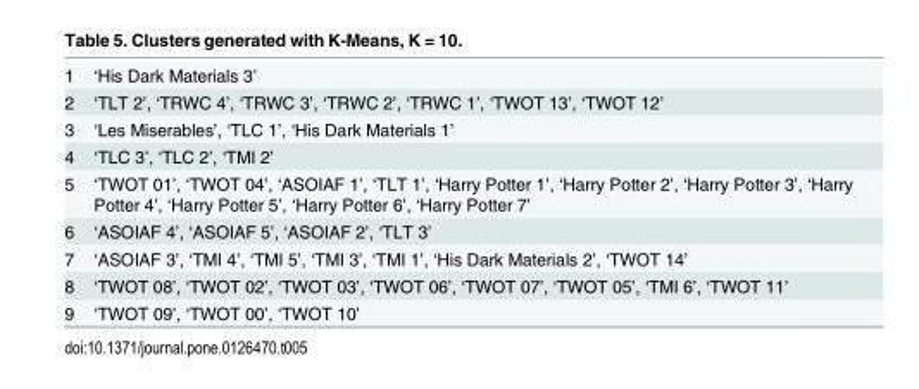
<table><tbody><tr><td>1</td><td>‘His Dark Materials 3’</td></tr><tr><td>2</td><td>‘TLT 2’, ‘TRWC 4’, ‘TRWC 3’, ‘TRWC 2’, ‘TRWC 1’, ‘TWOT 13’, ‘TWOT 12’</td></tr><tr><td>3</td><td>‘Les Miserables’, ‘TLC 1’, ‘His Dark Materials 1’</td></tr><tr><td>4</td><td>‘TLC 3’, ‘TLC 2’, ‘TMI 2’</td></tr><tr><td>5</td><td>‘TWOT 01’, ‘TWOT 04’, ‘ASOIAF 1’, ‘TLT 1’, ‘Harry Potter 1’, ‘Harry Potter 2’, ‘Harry Potter 3’, ‘Harry Potter 4’, ‘Harry Potter 5’, ‘Harry Potter 6’, ‘Harry Potter 7’</td></tr><tr><td>6</td><td>‘ASOIAF 4’, ‘ASOIAF 5’, ‘ASOIAF 2’, ‘TLT 3’</td></tr><tr><td>7</td><td>‘ASOIAF 3’, ‘TMI 4’, ‘TMI 5’, ‘TMI 3’, ‘TMI 1’, ‘His Dark Materials 2’, ‘TWOT 14’</td></tr><tr><td>8</td><td>‘TWOT 08’, ‘TWOT 02’, ‘TWOT 03’, ‘TWOT 06’, ‘TWOT 07’, ‘TWOT 05’, ‘TMI 6’, ‘TWOT 11’</td></tr><tr><td>9</td><td>‘TWOT 09’, ‘TWOT 00’, ‘TWOT 10’</td></tr></tbody></table>